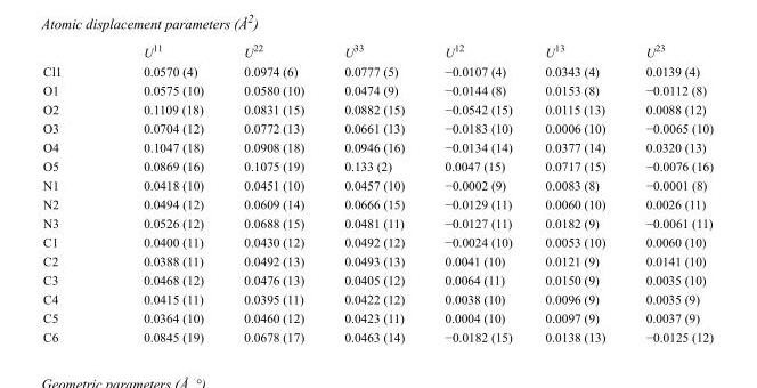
<table><thead><tr><td></td><td>U<sup>11</sup></td><td>U<sup>22</sup></td><td>U<sup>33</sup></td><td>U<sup>12</sup></td><td>U<sup>13</sup></td><td>U<sup>23</sup></td></tr></thead><tbody><tr><td>Cl1</td><td>0.0570 (4)</td><td>0.0974 (6)</td><td>0.0777 (5)</td><td>−0.0107 (4)</td><td>0.0343 (4)</td><td>0.0139 (4)</td></tr><tr><td>O1</td><td>0.0575 (10)</td><td>0.0580 (10)</td><td>0.0474 (9)</td><td>−0.0144 (8)</td><td>0.0153 (8)</td><td>−0.0112 (8)</td></tr><tr><td>O2</td><td>0.1109 (18)</td><td>0.0831 (15)</td><td>0.0882 (15)</td><td>−0.0542 (15)</td><td>0.0115 (13)</td><td>0.0088 (12)</td></tr><tr><td>O3</td><td>0.0704 (12)</td><td>0.0772 (13)</td><td>0.0661 (13)</td><td>−0.0183 (10)</td><td>0.0006 (10)</td><td>−0.0065 (10)</td></tr><tr><td>O4</td><td>0.1047 (18)</td><td>0.0908 (18)</td><td>0.0946 (16)</td><td>−0.0134 (14)</td><td>0.0377 (14)</td><td>0.0320 (13)</td></tr><tr><td>O5</td><td>0.0869 (16)</td><td>0.1075 (19)</td><td>0.133 (2)</td><td>0.0047 (15)</td><td>0.0717 (15)</td><td>−0.0076 (16)</td></tr><tr><td>N1</td><td>0.0418 (10)</td><td>0.0451 (10)</td><td>0.0457 (10)</td><td>−0.0002 (9)</td><td>0.0083 (8)</td><td>−0.0001 (8)</td></tr><tr><td>N2</td><td>0.0494 (12)</td><td>0.0609 (14)</td><td>0.0666 (15)</td><td>−0.0129 (11)</td><td>0.0060 (10)</td><td>0.0026 (11)</td></tr><tr><td>N3</td><td>0.0526 (12)</td><td>0.0688 (15)</td><td>0.0481 (11)</td><td>−0.0127 (11)</td><td>0.0182 (9)</td><td>−0.0061 (11)</td></tr><tr><td>C1</td><td>0.0400 (11)</td><td>0.0430 (12)</td><td>0.0492 (12)</td><td>−0.0024 (10)</td><td>0.0053 (10)</td><td>0.0060 (10)</td></tr><tr><td>C2</td><td>0.0388 (11)</td><td>0.0492 (13)</td><td>0.0493 (13)</td><td>0.0041 (10)</td><td>0.0121 (9)</td><td>0.0141 (10)</td></tr><tr><td>C3</td><td>0.0468 (12)</td><td>0.0476 (13)</td><td>0.0405 (12)</td><td>0.0064 (11)</td><td>0.0150 (9)</td><td>0.0035 (10)</td></tr><tr><td>C4</td><td>0.0415 (11)</td><td>0.0395 (11)</td><td>0.0422 (12)</td><td>0.0038 (10)</td><td>0.0096 (9)</td><td>0.0035 (9)</td></tr><tr><td>C5</td><td>0.0364 (10)</td><td>0.0460 (12)</td><td>0.0423 (11)</td><td>0.0004 (10)</td><td>0.0097 (9)</td><td>0.0037 (9)</td></tr><tr><td>C6</td><td>0.0845 (19)</td><td>0.0678 (17)</td><td>0.0463 (14)</td><td>−0.0182 (15)</td><td>0.0138 (13)</td><td>−0.0125 (12)</td></tr></tbody></table>